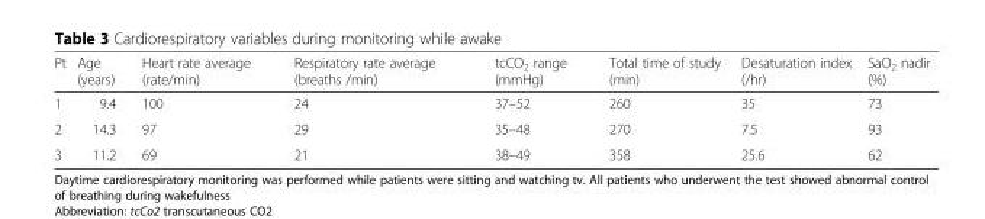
<table><thead><tr><td>Pt</td><td>Age (years)</td><td>Heart rate average (rate/min)</td><td>Respiratory rate average (breaths /min)</td><td>tcCO<sub>2</sub> range (mmHg)</td><td>Total time of study (min)</td><td>Desaturation index (/hr)</td><td>SaO<sub>2</sub> nadir (%)</td></tr></thead><tbody><tr><td>1</td><td>9.4</td><td>100</td><td>24</td><td>37–52</td><td>260</td><td>35</td><td>73</td></tr><tr><td>2</td><td>14.3</td><td>97</td><td>29</td><td>35–48</td><td>270</td><td>7.5</td><td>93</td></tr><tr><td>3</td><td>11.2</td><td>69</td><td>21</td><td>38–49</td><td>358</td><td>25.6</td><td>62</td></tr></tbody></table>